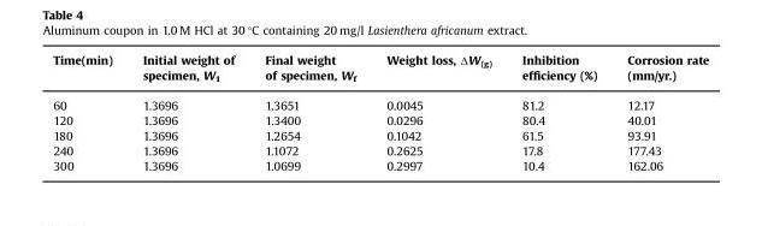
<table><thead><tr><td>Time(min)</td><td>Initial weight of specimen, W<sub>1</sub></td><td>Final weight of specimen, W<sub>f</sub></td><td>Weight loss, ΔW(g)</td><td>Inhibition efficiency (%)</td><td>Corrosion rate (mm/yr.)</td></tr></thead><tbody><tr><td>60</td><td>1.3696</td><td>1.3651</td><td>0.0045</td><td>81.2</td><td>12.17</td></tr><tr><td>120</td><td>1.3696</td><td>1.3400</td><td>0.0296</td><td>80.4</td><td>40.01</td></tr><tr><td>180</td><td>1.3696</td><td>1.2654</td><td>0.1042</td><td>61.5</td><td>93.91</td></tr><tr><td>240</td><td>1.3696</td><td>1.1072</td><td>0.2625</td><td>17.8</td><td>177.43</td></tr><tr><td>300</td><td>1.3696</td><td>1.0699</td><td>0.2997</td><td>10.4</td><td>162.06</td></tr></tbody></table>